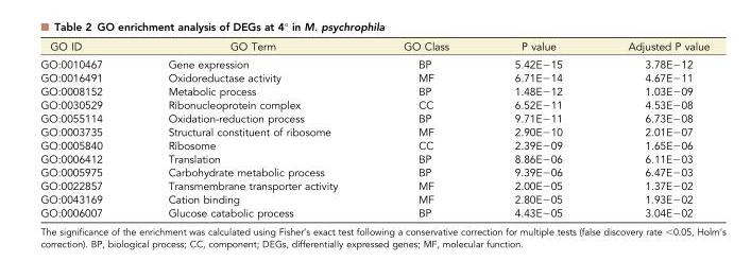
<table><thead><tr><td>GO ID</td><td>GO Term</td><td>GO Class</td><td>P value</td><td>Adjusted P value</td></tr></thead><tbody><tr><td>GO:0010467</td><td>Gene expression</td><td>BP</td><td>5.42E−15</td><td>3.78E−12</td></tr><tr><td>GO:0016491</td><td>Oxidoreductase activity</td><td>MF</td><td>6.71E−14</td><td>4.67E−11</td></tr><tr><td>GO:0008152</td><td>Metabolic process</td><td>BP</td><td>1.48E−12</td><td>1.03E−09</td></tr><tr><td>GO:0030529</td><td>Ribonucleoprotein complex</td><td>CC</td><td>6.52E−11</td><td>4.53E−08</td></tr><tr><td>GO:0055114</td><td>Oxidation-reduction process</td><td>BP</td><td>9.71E−11</td><td>6.73E−08</td></tr><tr><td>GO:0003735</td><td>Structural constituent of ribosome</td><td>MF</td><td>2.90E−10</td><td>2.01E−07</td></tr><tr><td>GO:0005840</td><td>Ribosome</td><td>CC</td><td>2.39E−09</td><td>1.65E−06</td></tr><tr><td>GO:0006412</td><td>Translation</td><td>BP</td><td>8.86E−06</td><td>6.11E−03</td></tr><tr><td>GO:0005975</td><td>Carbohydrate metabolic process</td><td>BP</td><td>9.39E−06</td><td>6.47E−03</td></tr><tr><td>GO:0022857</td><td>Transmembrane transporter activity</td><td>MF</td><td>2.00E−05</td><td>1.37E−02</td></tr><tr><td>GO:0043169</td><td>Cation binding</td><td>MF</td><td>2.80E−05</td><td>1.93E−02</td></tr><tr><td>GO:0006007</td><td>Glucose catabolic process</td><td>BP</td><td>4.43E−05</td><td>3.04E−02</td></tr></tbody></table>